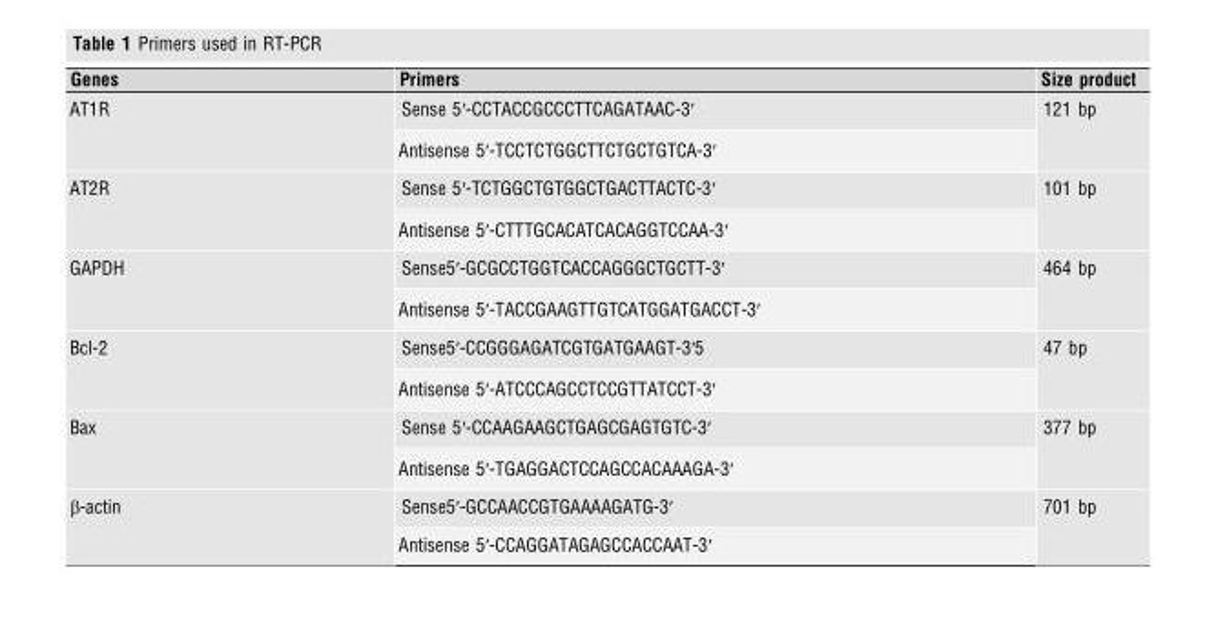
<table><thead><tr><td>Genes</td><td>Primers</td><td>Size product</td></tr></thead><tbody><tr><td rowspan="2">AT1R</td><td>Sense 5′-CCTACCGCCCTTCAGATAAC-3′</td><td rowspan="2">121 bp</td></tr><tr><td>Antisense 5′-TCCTCTGGCTTCTGCTGTCA-3′</td></tr><tr><td rowspan="2">AT2R</td><td>Sense 5′-TCTGGCTGTGGCTGACTTACTC-3′</td><td rowspan="2">101 bp</td></tr><tr><td>Antisense 5′-CTTTGCACATCACAGGTCCAA-3′</td></tr><tr><td rowspan="2">GAPDH</td><td>Sense5′-GCGCCTGGTCACCAGGGCTGCTT-3′</td><td rowspan="2">464 bp</td></tr><tr><td>Antisense 5′-TACCGAAGTTGTCATGGATGACCT-3′</td></tr><tr><td rowspan="2">Bcl-2</td><td>Sense5′-CCGGGAGATCGTGATGAAGT-3′5</td><td rowspan="2">47 bp</td></tr><tr><td>Antisense 5′-ATCCCAGCCTCCGTTATCCT-3′</td></tr><tr><td rowspan="2">Bax</td><td>Sense 5′-CCAAGAAGCTGAGCGAGTGTC-3′</td><td rowspan="2">377 bp</td></tr><tr><td>Antisense 5′-TGAGGACTCCAGCCACAAAGA-3′</td></tr><tr><td rowspan="2">β-actin</td><td>Sense5′-GCCAACCGTGAAAAGATG-3′</td><td rowspan="2">701 bp</td></tr><tr><td>Antisense 5′-CCAGGATAGAGCCACCAAT-3′</td></tr></tbody></table>